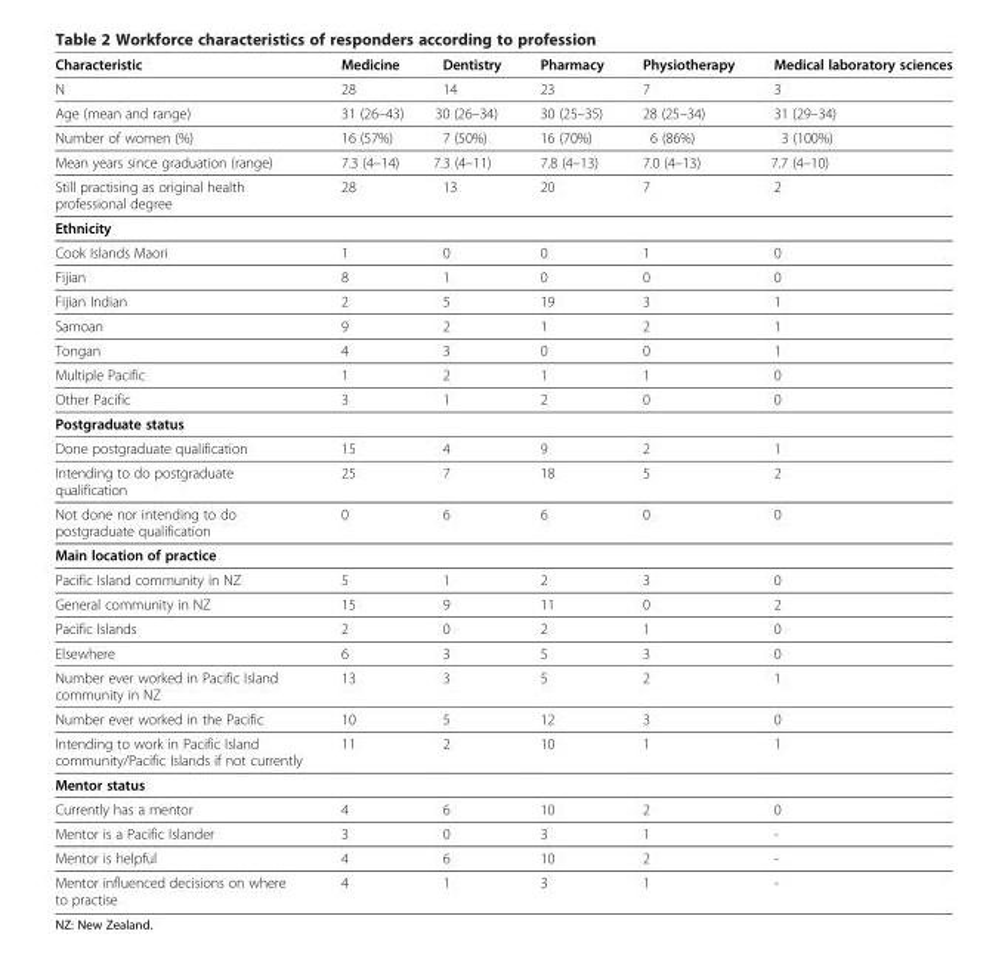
<table><thead><tr><td>Characteristic</td><td>Medicine</td><td>Dentistry</td><td>Pharmacy</td><td>Physiotherapy</td><td>Medical laboratory sciences</td></tr></thead><tbody><tr><td>N</td><td>28</td><td>14</td><td>23</td><td>7</td><td>3</td></tr><tr><td>Age (mean and range)</td><td>31 (26–43)</td><td>30 (26–34)</td><td>30 (25–35)</td><td>28 (25–34)</td><td>31 (29–34)</td></tr><tr><td>Number of women (%)</td><td>16 (57%)</td><td>7 (50%)</td><td>16 (70%)</td><td>6 (86%)</td><td>3 (100%)</td></tr><tr><td>Mean years since graduation (range)</td><td>7.3 (4–14)</td><td>7.3 (4–11)</td><td>7.8 (4–13)</td><td>7.0 (4–13)</td><td>7.7 (4–10)</td></tr><tr><td>Still practising as original health professional degree</td><td>28</td><td>13</td><td>20</td><td>7</td><td>2</td></tr><tr><td colspan="6">Ethnicity</td></tr><tr><td>Cook Islands Maori</td><td>1</td><td>0</td><td>0</td><td>1</td><td>0</td></tr><tr><td>Fijian</td><td>8</td><td>1</td><td>0</td><td>0</td><td>0</td></tr><tr><td>Fijian Indian</td><td>2</td><td>5</td><td>19</td><td>3</td><td>1</td></tr><tr><td>Samoan</td><td>9</td><td>2</td><td>1</td><td>2</td><td>1</td></tr><tr><td>Tongan</td><td>4</td><td>3</td><td>0</td><td>0</td><td>1</td></tr><tr><td>Multiple Pacific</td><td>1</td><td>2</td><td>1</td><td>1</td><td>0</td></tr><tr><td>Other Pacific</td><td>3</td><td>1</td><td>2</td><td>0</td><td>0</td></tr><tr><td colspan="6">Postgraduate status</td></tr><tr><td>Done postgraduate qualification</td><td>15</td><td>4</td><td>9</td><td>2</td><td>1</td></tr><tr><td>Intending to do postgraduate qualification</td><td>25</td><td>7</td><td>18</td><td>5</td><td>2</td></tr><tr><td>Not done nor intending to do postgraduate qualification</td><td>0</td><td>6</td><td>6</td><td>0</td><td>0</td></tr><tr><td colspan="6">Main location of practice</td></tr><tr><td>Pacific Island community in NZ</td><td>5</td><td>1</td><td>2</td><td>3</td><td>0</td></tr><tr><td>General community in NZ</td><td>15</td><td>9</td><td>11</td><td>0</td><td>2</td></tr><tr><td>Pacific Islands</td><td>2</td><td>0</td><td>2</td><td>1</td><td>0</td></tr><tr><td>Elsewhere</td><td>6</td><td>3</td><td>5</td><td>3</td><td>0</td></tr><tr><td>Number ever worked in Pacific Island community in NZ</td><td>13</td><td>3</td><td>5</td><td>2</td><td>1</td></tr><tr><td>Number ever worked in the Pacific</td><td>10</td><td>5</td><td>12</td><td>3</td><td>0</td></tr><tr><td>Intending to work in Pacific Island community/Pacific Islands if not currently</td><td>11</td><td>2</td><td>10</td><td>1</td><td>1</td></tr><tr><td colspan="6">Mentor status</td></tr><tr><td>Currently has a mentor</td><td>4</td><td>6</td><td>10</td><td>2</td><td>0</td></tr><tr><td>Mentor is a Pacific Islander</td><td>3</td><td>0</td><td>3</td><td>1</td><td>-</td></tr><tr><td>Mentor is helpful</td><td>4</td><td>6</td><td>10</td><td>2</td><td>-</td></tr><tr><td>Mentor influenced decisions on where to practise</td><td>4</td><td>1</td><td>3</td><td>1</td><td>-</td></tr></tbody></table>